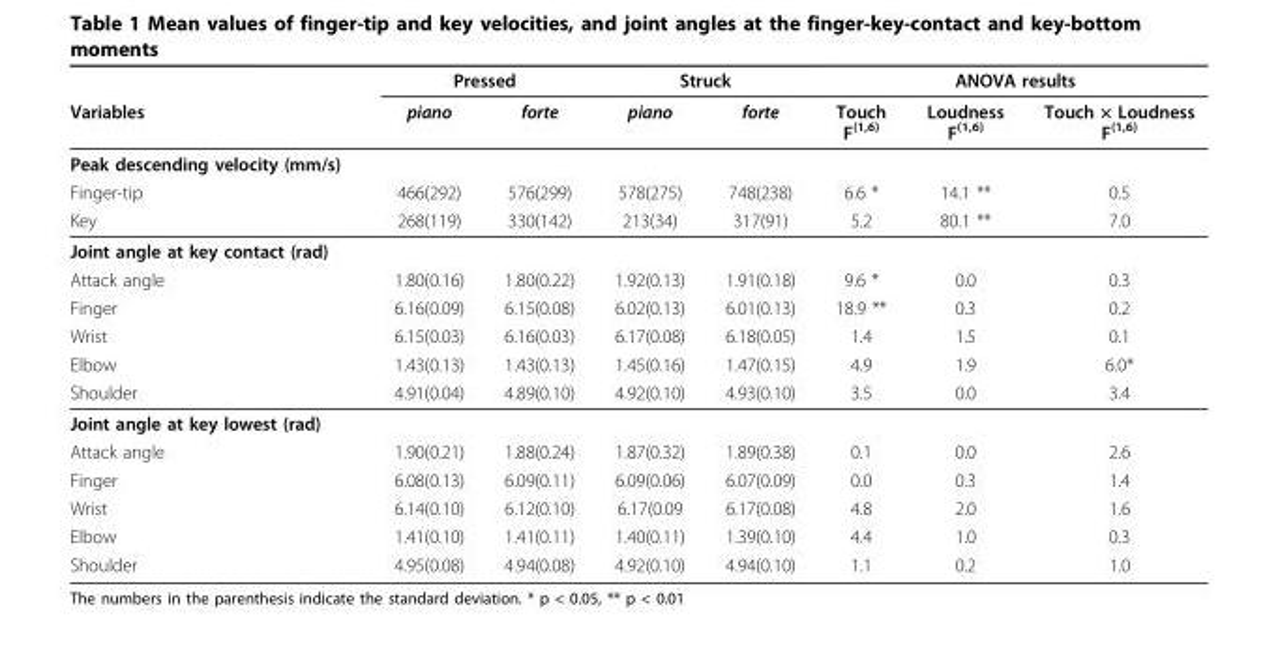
<table><thead><tr><td rowspan="2">Variables</td><td colspan="2">Pressed</td><td colspan="2">Struck</td><td colspan="3">ANOVA results</td></tr><tr><td>piano</td><td>forte</td><td>piano</td><td>forte</td><td>Touch F<sup>(1,6)</sup></td><td>Loudness F<sup>(1,6)</sup></td><td>Touch × Loudness F<sup>(1,6)</sup></td></tr></thead><tbody><tr><td colspan="8">Peak descending velocity (mm/s)</td></tr><tr><td>Finger-tip</td><td>466(292)</td><td>576(299)</td><td>578(275)</td><td>748(238)</td><td>6.6 *</td><td>14.1 **</td><td>0.5</td></tr><tr><td>Key</td><td>268(119)</td><td>330(142)</td><td>213(34)</td><td>317(91)</td><td>5.2</td><td>80.1 **</td><td>7.0</td></tr><tr><td colspan="8">Joint angle at key contact (rad)</td></tr><tr><td>Attack angle</td><td>1.80(0.16)</td><td>1.80(0.22)</td><td>1.92(0.13)</td><td>1.91(0.18)</td><td>9.6 *</td><td>0.0</td><td>0.3</td></tr><tr><td>Finger</td><td>6.16(0.09)</td><td>6.15(0.08)</td><td>6.02(0.13)</td><td>6.01(0.13)</td><td>18.9 **</td><td>0.3</td><td>0.2</td></tr><tr><td>Wrist</td><td>6.15(0.03)</td><td>6.16(0.03)</td><td>6.17(0.08)</td><td>6.18(0.05)</td><td>1.4</td><td>1.5</td><td>0.1</td></tr><tr><td>Elbow</td><td>1.43(0.13)</td><td>1.43(0.13)</td><td>1.45(0.16)</td><td>1.47(0.15)</td><td>4.9</td><td>1.9</td><td>6.0*</td></tr><tr><td>Shoulder</td><td>4.91(0.04)</td><td>4.89(0.10)</td><td>4.92(0.10)</td><td>4.93(0.10)</td><td>3.5</td><td>0.0</td><td>3.4</td></tr><tr><td colspan="8">Joint angle at key lowest (rad)</td></tr><tr><td>Attack angle</td><td>1.90(0.21)</td><td>1.88(0.24)</td><td>1.87(0.32)</td><td>1.89(0.38)</td><td>0.1</td><td>0.0</td><td>2.6</td></tr><tr><td>Finger</td><td>6.08(0.13)</td><td>6.09(0.11)</td><td>6.09(0.06)</td><td>6.07(0.09)</td><td>0.0</td><td>0.3</td><td>1.4</td></tr><tr><td>Wrist</td><td>6.14(0.10)</td><td>6.12(0.10)</td><td>6.17(0.09</td><td>6.17(0.08)</td><td>4.8</td><td>2.0</td><td>1.6</td></tr><tr><td>Elbow</td><td>1.41(0.10)</td><td>1.41(0.11)</td><td>1.40(0.11)</td><td>1.39(0.10)</td><td>4.4</td><td>1.0</td><td>0.3</td></tr><tr><td>Shoulder</td><td>4.95(0.08)</td><td>4.94(0.08)</td><td>4.92(0.10)</td><td>4.94(0.10)</td><td>1.1</td><td>0.2</td><td>1.0</td></tr></tbody></table>